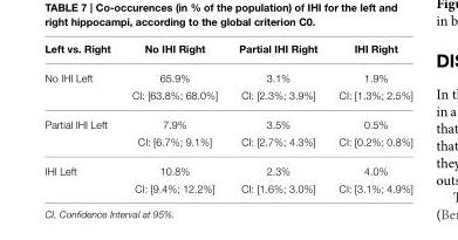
<table><thead><tr><td>Left vs. Right</td><td>No IHI Right</td><td>Partial IHI Right</td><td>IHI Right</td></tr></thead><tbody><tr><td rowspan="2">No IHI Left</td><td>65.9%</td><td>3.1%</td><td>1.9%</td></tr><tr><td>CI: [63.8%; 68.0%]</td><td>CI: [2.3%; 3.9%]</td><td>CI: [1.3%; 2.5%]</td></tr><tr><td rowspan="2">Partial IHI Left</td><td>7.9%</td><td>3.5%</td><td>0.5%</td></tr><tr><td>CI: [6.7%; 9.1%]</td><td>CI: [2.7%; 4.3%]</td><td>CI: [0.2%; 0.8%]</td></tr><tr><td rowspan="2">IHI Left</td><td>10.8%</td><td>2.3%</td><td>4.0%</td></tr><tr><td>CI: [9.4%; 12.2%]</td><td>CI: [1.6%; 3.0%]</td><td>CI: [3.1%; 4.9%]</td></tr></tbody></table>